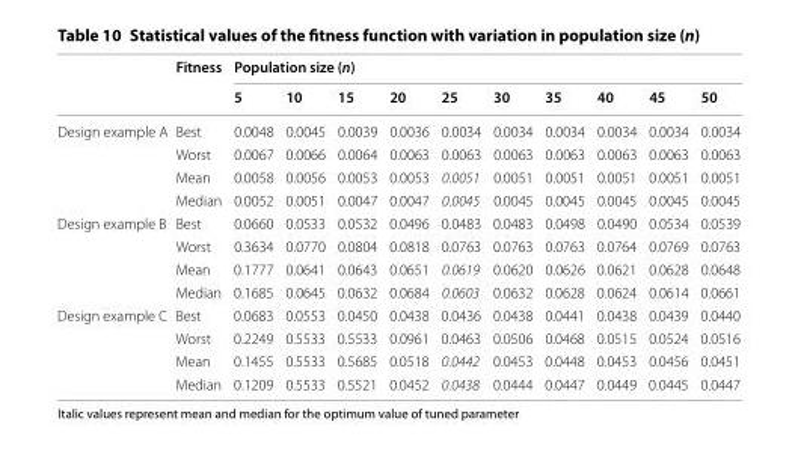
<table><thead><tr><td rowspan="2"></td><td rowspan="2">Fitness</td><td colspan="10">Population size (n)</td></tr><tr><td>5</td><td>10</td><td>15</td><td>20</td><td>25</td><td>30</td><td>35</td><td>40</td><td>45</td><td>50</td></tr></thead><tbody><tr><td rowspan="4">Design example A</td><td>Best</td><td>0.0048</td><td>0.0045</td><td>0.0039</td><td>0.0036</td><td>0.0034</td><td>0.0034</td><td>0.0034</td><td>0.0034</td><td>0.0034</td><td>0.0034</td></tr><tr><td>Worst</td><td>0.0067</td><td>0.0066</td><td>0.0064</td><td>0.0063</td><td>0.0063</td><td>0.0063</td><td>0.0063</td><td>0.0063</td><td>0.0063</td><td>0.0063</td></tr><tr><td>Mean</td><td>0.0058</td><td>0.0056</td><td>0.0053</td><td>0.0053</td><td>0.0051</td><td>0.0051</td><td>0.0051</td><td>0.0051</td><td>0.0051</td><td>0.0051</td></tr><tr><td>Median</td><td>0.0052</td><td>0.0051</td><td>0.0047</td><td>0.0047</td><td>0.0045</td><td>0.0045</td><td>0.0045</td><td>0.0045</td><td>0.0045</td><td>0.0045</td></tr><tr><td rowspan="4">Design example B</td><td>Best</td><td>0.0660</td><td>0.0533</td><td>0.0532</td><td>0.0496</td><td>0.0483</td><td>0.0483</td><td>0.0498</td><td>0.0490</td><td>0.0534</td><td>0.0539</td></tr><tr><td>Worst</td><td>0.3634</td><td>0.0770</td><td>0.0804</td><td>0.0818</td><td>0.0763</td><td>0.0763</td><td>0.0763</td><td>0.0764</td><td>0.0769</td><td>0.0763</td></tr><tr><td>Mean</td><td>0.1777</td><td>0.0641</td><td>0.0643</td><td>0.0651</td><td>0.0619</td><td>0.0620</td><td>0.0626</td><td>0.0621</td><td>0.0628</td><td>0.0648</td></tr><tr><td>Median</td><td>0.1685</td><td>0.0645</td><td>0.0632</td><td>0.0684</td><td>0.0603</td><td>0.0632</td><td>0.0628</td><td>0.0624</td><td>0.0614</td><td>0.0661</td></tr><tr><td rowspan="4">Design example C</td><td>Best</td><td>0.0683</td><td>0.0553</td><td>0.0450</td><td>0.0438</td><td>0.0436</td><td>0.0438</td><td>0.0441</td><td>0.0438</td><td>0.0439</td><td>0.0440</td></tr><tr><td>Worst</td><td>0.2249</td><td>0.5533</td><td>0.5533</td><td>0.0961</td><td>0.0463</td><td>0.0506</td><td>0.0468</td><td>0.0515</td><td>0.0524</td><td>0.0516</td></tr><tr><td>Mean</td><td>0.1455</td><td>0.5533</td><td>0.5685</td><td>0.0518</td><td>0.0442</td><td>0.0453</td><td>0.0448</td><td>0.0453</td><td>0.0456</td><td>0.0451</td></tr><tr><td>Median</td><td>0.1209</td><td>0.5533</td><td>0.5521</td><td>0.0452</td><td>0.0438</td><td>0.0444</td><td>0.0447</td><td>0.0449</td><td>0.0445</td><td>0.0447</td></tr></tbody></table>